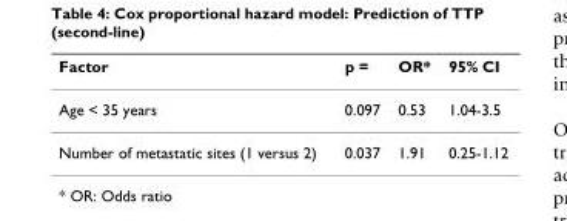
<table><thead><tr><td>Factor</td><td>p =</td><td>OR*</td><td>95% CI</td></tr></thead><tbody><tr><td>Age &lt; 35 years</td><td>0.097</td><td>0.53</td><td>1.04-3.5</td></tr><tr><td>Number of metastatic sites (1 versus 2)</td><td>0.037</td><td>1.91</td><td>0.25-1.12</td></tr></tbody></table>